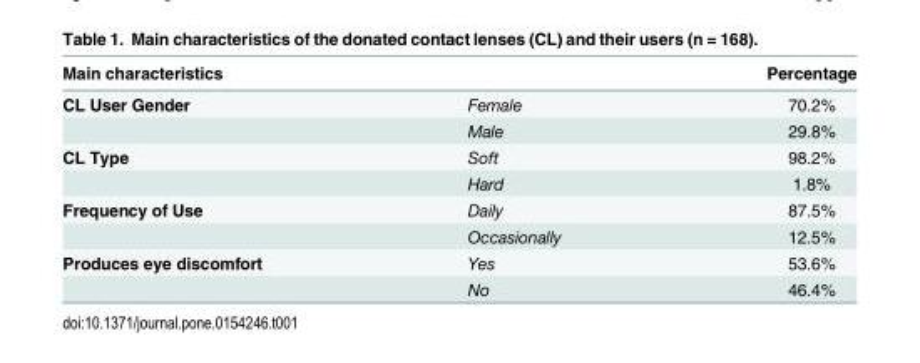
<table><thead><tr><td colspan="2">Main characteristics</td><td rowspan="2">Percentage 70.2%</td></tr><tr><td>CL User Gender</td><td>Female</td></tr></thead><tbody><tr><td></td><td>Male</td><td>29.8%</td></tr><tr><td rowspan="2">CL Type</td><td>Soft</td><td>98.2%</td></tr><tr><td>Hard</td><td>1.8%</td></tr><tr><td rowspan="2">Frequency of Use</td><td>Daily</td><td>87.5%</td></tr><tr><td>Occasionally</td><td>12.5%</td></tr><tr><td rowspan="2">Produces eye discomfort</td><td>Yes</td><td>53.6%</td></tr><tr><td>No</td><td>46.4%</td></tr></tbody></table>